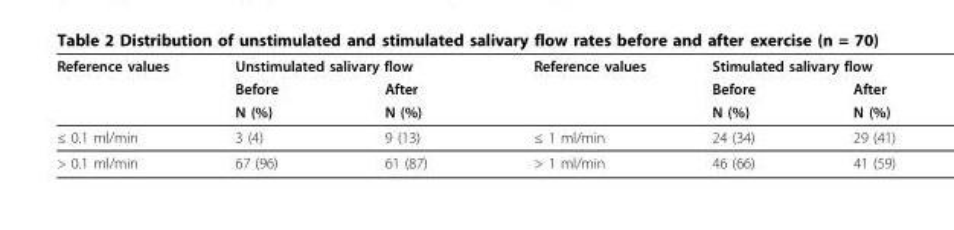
<table><thead><tr><td rowspan="3">Reference values</td><td colspan="2">Unstimulated salivary flow</td><td rowspan="3">Reference values</td><td colspan="2">Stimulated salivary flow</td></tr><tr><td rowspan="2">Before N (%)</td><td rowspan="2">After N (%)</td><td rowspan="2">Before N (%)</td><td rowspan="2">After N (%)</td></tr><tr></tr></thead><tbody><tr><td>≤ 0.1 ml/min</td><td>3 (4)</td><td>9 (13)</td><td>≤ 1 ml/min</td><td>24 (34)</td><td>29 (41)</td></tr><tr><td>&gt; 0.1 ml/min</td><td>67 (96)</td><td>61 (87)</td><td>&gt; 1 ml/min</td><td>46 (66)</td><td>41 (59)</td></tr></tbody></table>